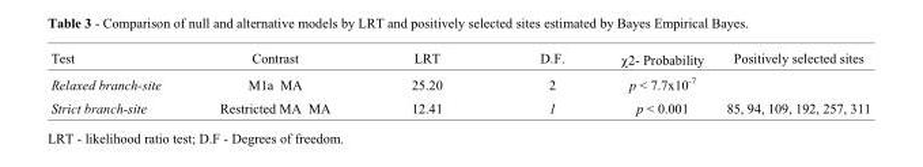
<table><thead><tr><td>Test</td><td>Contrast</td><td>LRT</td><td>D.F.</td><td>χ2- Probability</td><td>Positively selected sites</td></tr></thead><tbody><tr><td>Relaxed branch-site</td><td>M1a MA</td><td>25.20</td><td>2</td><td>p &lt; 7.7x10<sup>-7</sup></td><td></td></tr><tr><td>Strict branch-site</td><td>Restricted MA MA</td><td>12.41</td><td>1</td><td>p &lt; 0.001</td><td>85, 94, 109, 192, 257, 311</td></tr></tbody></table>